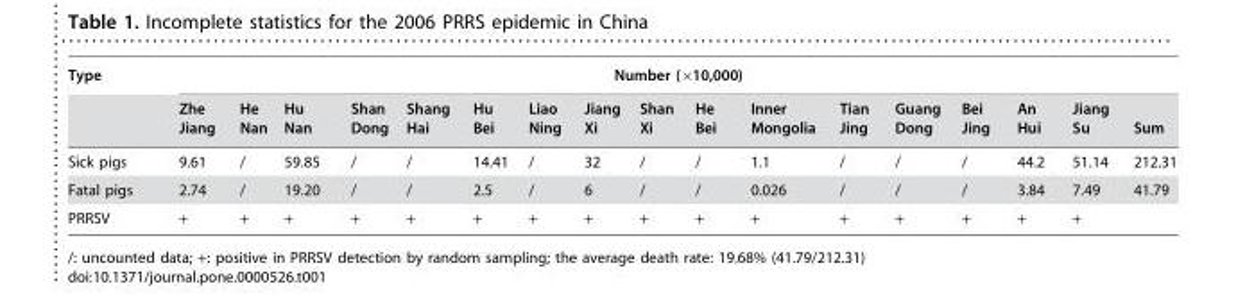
<table><thead><tr><td rowspan="2">Type</td><td colspan="17">Number (×10,000)</td></tr><tr><td>Zhe Jiang</td><td>He Nan</td><td>Hu Nan</td><td>Shan Dong</td><td>Shang Hai</td><td>Hu Bei</td><td>Liao Ning</td><td>Jiang Xi</td><td>Shan Xi</td><td>He Bei</td><td>Inner Mongolia</td><td>Tian Jing</td><td>Guang Dong</td><td>Bei Jing</td><td>An Hui</td><td>Jiang Su</td><td>Sum</td></tr></thead><tbody><tr><td>Sick pigs</td><td>9.61</td><td>/</td><td>59.85</td><td>/</td><td>/</td><td>14.41</td><td>/</td><td>32</td><td>/</td><td>/</td><td>1.1</td><td>/</td><td>/</td><td>/</td><td>44.2</td><td>51.14</td><td>212.31</td></tr><tr><td>Fatal pigs</td><td>2.74</td><td>/</td><td>19.20</td><td>/</td><td>/</td><td>2.5</td><td>/</td><td>6</td><td>/</td><td>/</td><td>0.026</td><td>/</td><td>/</td><td>/</td><td>3.84</td><td>7.49</td><td>41.79</td></tr><tr><td>PRRSV</td><td>+</td><td>+</td><td>+</td><td>+</td><td>+</td><td>+</td><td>+</td><td>+</td><td>+</td><td>+</td><td>+</td><td>+</td><td>+</td><td>+</td><td>+</td><td>+</td><td></td></tr></tbody></table>